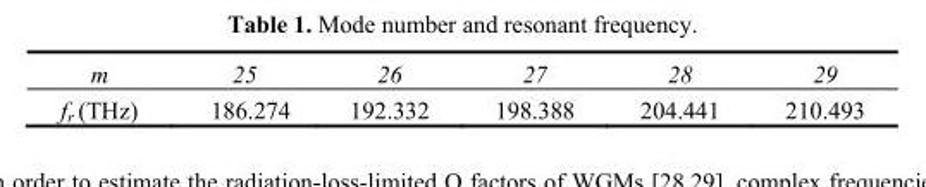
<table><thead><tr><td>m</td><td>25</td><td>26</td><td>27</td><td>28</td><td>29</td></tr></thead><tbody><tr><td>f<sub>r</sub> (THz)</td><td>186.274</td><td>192.332</td><td>198.388</td><td>204.441</td><td>210.493</td></tr></tbody></table>